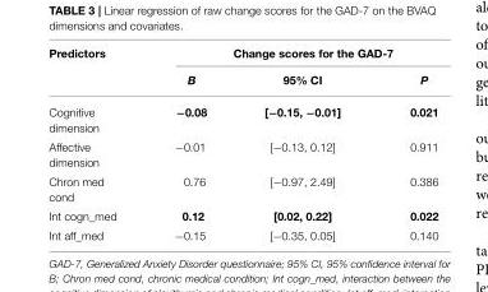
<table><thead><tr><td rowspan="2">Predictors</td><td colspan="3">Change scores for the GAD-7</td></tr><tr><td>B</td><td>95% CI</td><td>P</td></tr></thead><tbody><tr><td>Cognitive dimension</td><td>−0.08</td><td>[−0.15, −0.01]</td><td>0.021</td></tr><tr><td>Affective dimension</td><td>−0.01</td><td>[−0.13, 0.12]</td><td>0.911</td></tr><tr><td>Chron med cond</td><td>0.76</td><td>[−0.97, 2.49]</td><td>0.386</td></tr><tr><td>Int cogn_med</td><td>0.12</td><td>[0.02, 0.22]</td><td>0.022</td></tr><tr><td>Int aff_med</td><td>−0.15</td><td>[−0.35, 0.05]</td><td>0.140</td></tr></tbody></table>